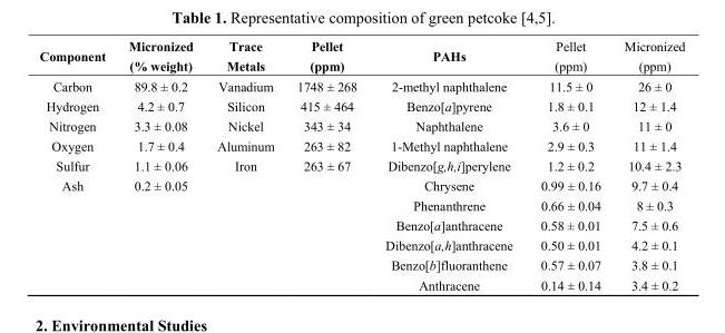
<table><thead><tr><td>Component</td><td>Micronized (% weight)</td><td>Trace Metals</td><td>Pellet (ppm)</td><td>PAHs</td><td>Pellet (ppm)</td><td>Micronized (ppm)</td></tr></thead><tbody><tr><td>Carbon</td><td>89.8 ± 0.2</td><td>Vanadium</td><td>1748 ± 268</td><td>2-methyl naphthalene</td><td>11.5 ± 0</td><td>26 ± 0</td></tr><tr><td>Hydrogen</td><td>4.2 ± 0.7</td><td>Silicon</td><td>415 ± 464</td><td>Benzo[a]pyrene</td><td>1.8 ± 0.1</td><td>12 ± 1.4</td></tr><tr><td>Nitrogen</td><td>3.3 ± 0.08</td><td>Nickel</td><td>343 ± 34</td><td>Naphthalene</td><td>3.6 ± 0</td><td>11 ± 0</td></tr><tr><td>Oxygen</td><td>1.7 ± 0.4</td><td>Aluminum</td><td>263 ± 82</td><td>1-Methyl naphthalene</td><td>2.9 ± 0.3</td><td>11 ± 1.4</td></tr><tr><td>Sulfur</td><td>1.1 ± 0.06</td><td>Iron</td><td>263 ± 67</td><td>Dibenzo[g,h,i]perylene</td><td>1.2 ± 0.2</td><td>10.4 ± 2.3</td></tr><tr><td rowspan="6">Ash</td><td>0.2 ± 0.05</td><td></td><td></td><td>Chrysene</td><td>0.99 ± 0.16</td><td>9.7 ± 0.4</td></tr><tr><td></td><td></td><td></td><td>Phenanthrene</td><td>0.66 ± 0.04</td><td>8 ± 0.3</td></tr><tr><td></td><td></td><td></td><td>Benzo[a]anthracene</td><td>0.58 ± 0.01</td><td>7.5 ± 0.6</td></tr><tr><td></td><td></td><td></td><td>Dibenzo[a,h]anthracene</td><td>0.50 ± 0.01</td><td>4.2 ± 0.1</td></tr><tr><td></td><td></td><td></td><td>Benzo[b]fluoranthene</td><td>0.57 ± 0.07</td><td>3.8 ± 0.1</td></tr><tr><td></td><td></td><td></td><td>Anthracene</td><td>0.14 ± 0.14</td><td>3.4 ± 0.2</td></tr></tbody></table>